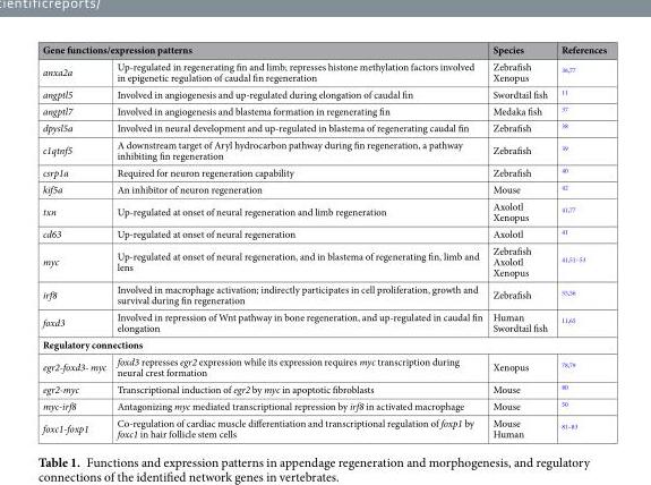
<table><thead><tr><td colspan="2">Gene functions/expression patterns</td><td rowspan="2">Species Zebrafish Xenopus</td><td rowspan="2">References 36,77</td></tr><tr><td>anxa2a</td><td>Up-regulated in regenerating fin and limb; represses histone methylation factors involved in epigenetic regulation of caudal fin regeneration</td></tr></thead><tbody><tr><td>angptl5</td><td>Involved in angiogenesis and up-regulated during elongation of caudal fin</td><td>Swordtail fish</td><td><sup>11</sup></td></tr><tr><td>angptl7</td><td>Involved in angiogenesis and blastema formation in regenerating fin</td><td>Medaka fish</td><td><sup>37</sup></td></tr><tr><td>dpysl5a</td><td>Involved in neural development and up-regulated in blastema of regenerating caudal fin</td><td>Zebrafish</td><td><sup>38</sup></td></tr><tr><td>c1qtnf5</td><td>A downstream target of Aryl hydrocarbon pathway during fin regeneration, a pathway inhibiting fin regeneration</td><td>Zebrafish</td><td><sup>39</sup></td></tr><tr><td>csrp1a</td><td>Required for neuron regeneration capability</td><td>Zebrafish</td><td><sup>40</sup></td></tr><tr><td>kif5a</td><td>An inhibitor of neuron regeneration</td><td>Mouse</td><td><sup>42</sup></td></tr><tr><td>txn</td><td>Up-regulated at onset of neural regeneration and limb regeneration</td><td>Axolotl Xenopus</td><td><sup>41,77</sup></td></tr><tr><td>cd63</td><td>Up-regulated at onset of neural regeneration</td><td>Axolotl</td><td><sup>41</sup></td></tr><tr><td>myc</td><td>Up-regulated at onset of neural regeneration, and in blastema of regenerating fin, limb and lens</td><td>Zebrafish Axolotl Xenopus</td><td><sup>41,51–53</sup></td></tr><tr><td>irf8</td><td>Involved in macrophage activation; indirectly participates in cell proliferation, growth and survival during fin regeneration</td><td>Zebrafish</td><td><sup>55,56</sup></td></tr><tr><td>foxd3</td><td>Involved in repression of Wnt pathway in bone regeneration, and up-regulated in caudal fin elongation</td><td>Human Swordtail fish</td><td><sup>11,65</sup></td></tr><tr><td colspan="4">Regulatory connections</td></tr><tr><td>egr2-foxd3- myc</td><td>foxd3 represses egr2 expression while its expression requires myc transcription during neural crest formation</td><td>Xenopus</td><td><sup>78,79</sup></td></tr><tr><td>egr2-myc</td><td>Transcriptional induction of egr2 by myc in apoptotic fibroblasts</td><td>Mouse</td><td><sup>80</sup></td></tr><tr><td>myc-irf8</td><td>Antagonizing myc mediated transcriptional repression by irf8 in activated macrophage</td><td>Mouse</td><td><sup>50</sup></td></tr><tr><td>foxc1-foxp1</td><td>Co-regulation of cardiac muscle differentiation and transcriptional regulation of foxp1 by foxc1 in hair follicle stem cells</td><td>Mouse Human</td><td><sup>81–83</sup></td></tr></tbody></table>